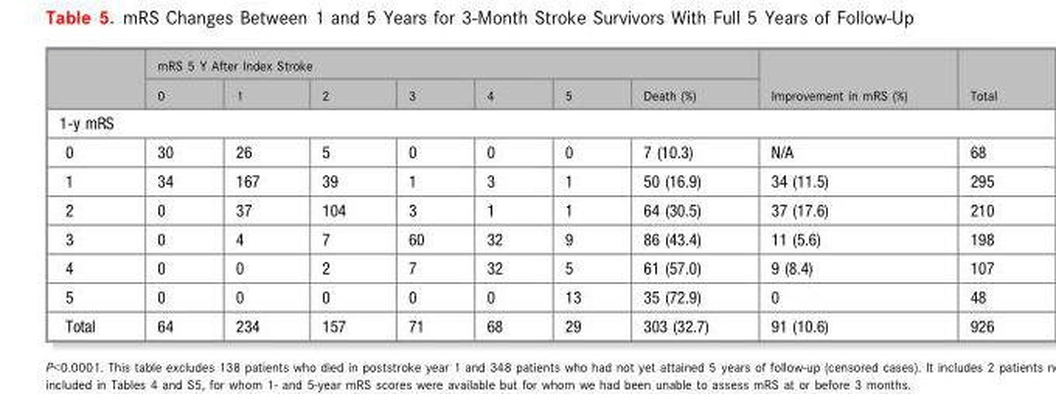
<table><thead><tr><td rowspan="2"></td><td colspan="7">mRS 5 Y After Index Stroke</td><td rowspan="2">Improvement in mRS (%)</td><td rowspan="2">Total</td></tr><tr><td>0</td><td>1</td><td>2</td><td>3</td><td>4</td><td>5</td><td>Death (%)</td></tr></thead><tbody><tr><td colspan="10">1-y mRS</td></tr><tr><td>0</td><td>30</td><td>26</td><td>5</td><td>0</td><td>0</td><td>0</td><td>7 (10.3)</td><td>N/A</td><td>68</td></tr><tr><td>1</td><td>34</td><td>167</td><td>39</td><td>1</td><td>3</td><td>1</td><td>50 (16.9)</td><td>34 (11.5)</td><td>295</td></tr><tr><td>2</td><td>0</td><td>37</td><td>104</td><td>3</td><td>1</td><td>1</td><td>64 (30.5)</td><td>37 (17.6)</td><td>210</td></tr><tr><td>3</td><td>0</td><td>4</td><td>7</td><td>60</td><td>32</td><td>9</td><td>86 (43.4)</td><td>11 (5.6)</td><td>198</td></tr><tr><td>4</td><td>0</td><td>0</td><td>2</td><td>7</td><td>32</td><td>5</td><td>61 (57.0)</td><td>9 (8.4)</td><td>107</td></tr><tr><td>5</td><td>0</td><td>0</td><td>0</td><td>0</td><td>0</td><td>13</td><td>35 (72.9)</td><td>0</td><td>48</td></tr><tr><td>Total</td><td>64</td><td>234</td><td>157</td><td>71</td><td>68</td><td>29</td><td>303 (32.7)</td><td>91 (10.6)</td><td>926</td></tr></tbody></table>